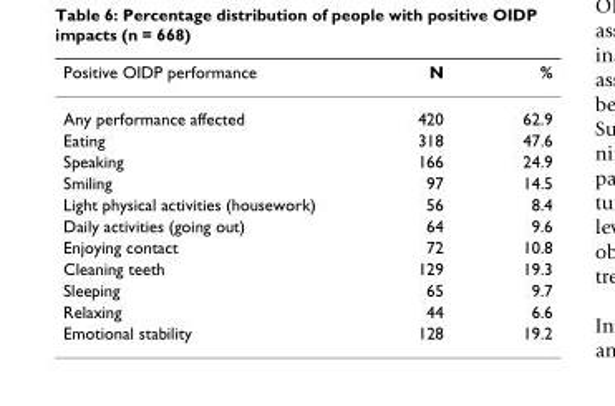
<table><thead><tr><td>Positive OIDP performance</td><td>N</td><td>%</td></tr></thead><tbody><tr><td>Any performance affected</td><td>420</td><td>62.9</td></tr><tr><td>Eating</td><td>318</td><td>47.6</td></tr><tr><td>Speaking</td><td>166</td><td>24.9</td></tr><tr><td>Smiling</td><td>97</td><td>14.5</td></tr><tr><td>Light physical activities (housework)</td><td>56</td><td>8.4</td></tr><tr><td>Daily activities (going out)</td><td>64</td><td>9.6</td></tr><tr><td>Enjoying contact</td><td>72</td><td>10.8</td></tr><tr><td>Cleaning teeth</td><td>129</td><td>19.3</td></tr><tr><td>Sleeping</td><td>65</td><td>9.7</td></tr><tr><td>Relaxing</td><td>44</td><td>6.6</td></tr><tr><td>Emotional stability</td><td>128</td><td>19.2</td></tr></tbody></table>